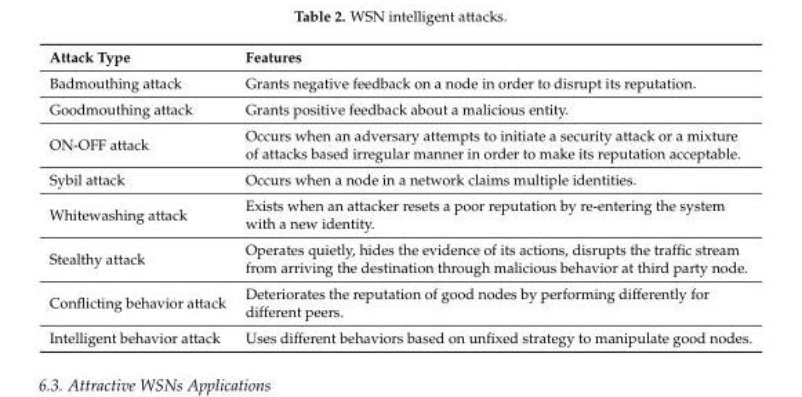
<table><thead><tr><td>Attack Type</td><td>Features</td></tr></thead><tbody><tr><td>Badmouthing attack</td><td>Grants negative feedback on a node in order to disrupt its reputation.</td></tr><tr><td>Goodmouthing attack</td><td>Grants positive feedback about a malicious entity.</td></tr><tr><td>ON-OFF attack</td><td>Occurs when an adversary attempts to initiate a security attack or a mixture of attacks based irregular manner in order to make its reputation acceptable.</td></tr><tr><td>Sybil attack</td><td>Occurs when a node in a network claims multiple identities.</td></tr><tr><td>Whitewashing attack</td><td>Exists when an attacker resets a poor reputation by re-entering the system with a new identity.</td></tr><tr><td>Stealthy attack</td><td>Operates quietly, hides the evidence of its actions, disrupts the traffic stream from arriving the destination through malicious behavior at third party node.</td></tr><tr><td>Conflicting behavior attack</td><td>Deteriorates the reputation of good nodes by performing differently for different peers.</td></tr><tr><td>Intelligent behavior attack</td><td>Uses different behaviors based on unfixed strategy to manipulate good nodes.</td></tr></tbody></table>